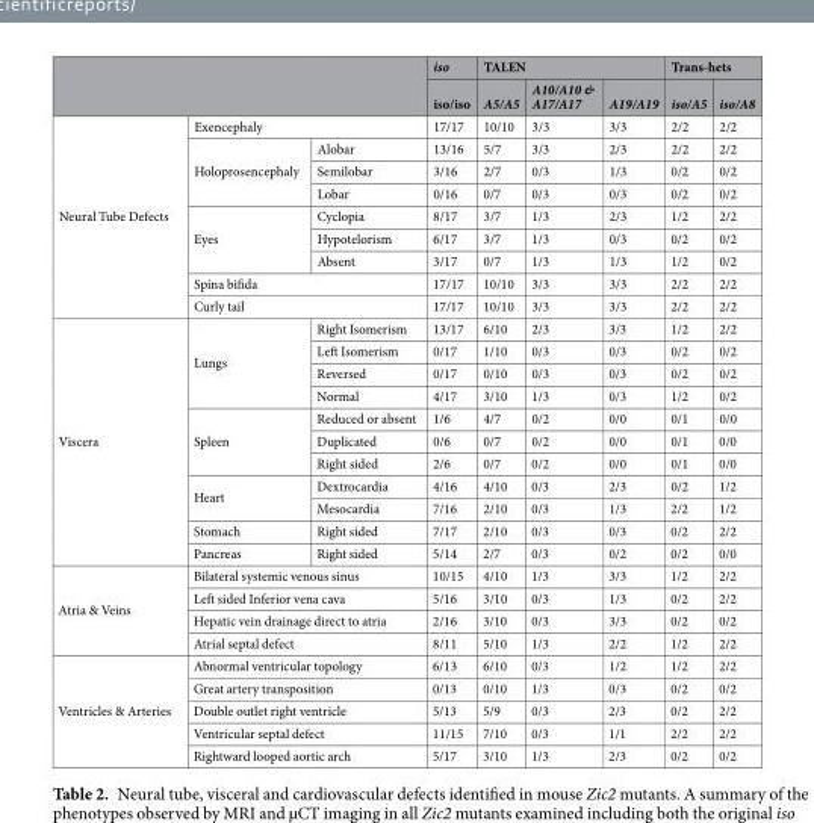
<table><thead><tr><td rowspan="2"></td><td rowspan="2"></td><td rowspan="2"></td><td rowspan="2">iso iso/iso</td><td colspan="3">TALEN</td><td colspan="2">Trans-hets</td></tr><tr><td>A5/A5</td><td>A10/A10 &amp; A17/A17</td><td>A19/A19</td><td>iso/A5</td><td>iso/A8</td></tr></thead><tbody><tr><td rowspan="9">Neural Tube Defects</td><td colspan="2">Exencephaly</td><td>17/17</td><td>10/10</td><td>3/3</td><td>3/3</td><td>2/2</td><td>2/2</td></tr><tr><td rowspan="3">Holoprosencephaly</td><td>Alobar</td><td>13/16</td><td>5/7</td><td>3/3</td><td>2/3</td><td>2/2</td><td>2/2</td></tr><tr><td>Semilobar</td><td>3/16</td><td>2/7</td><td>0/3</td><td>1/3</td><td>0/2</td><td>0/2</td></tr><tr><td>Lobar</td><td>0/16</td><td>0/7</td><td>0/3</td><td>0/3</td><td>0/2</td><td>0/2</td></tr><tr><td rowspan="3">Eyes</td><td>Cyclopia</td><td>8/17</td><td>3/7</td><td>1/3</td><td>2/3</td><td>1/2</td><td>2/2</td></tr><tr><td>Hypotelorism</td><td>6/17</td><td>3/7</td><td>1/3</td><td>0/3</td><td>0/2</td><td>0/2</td></tr><tr><td>Absent</td><td>3/17</td><td>0/7</td><td>1/3</td><td>1/3</td><td>1/2</td><td>0/2</td></tr><tr><td colspan="2">Spina bifida</td><td>17/17</td><td>10/10</td><td>3/3</td><td>3/3</td><td>2/2</td><td>2/2</td></tr><tr><td colspan="2">Curly tail</td><td>17/17</td><td>10/10</td><td>3/3</td><td>3/3</td><td>2/2</td><td>2/2</td></tr><tr><td rowspan="11">Viscera</td><td rowspan="4">Lungs</td><td>Right Isomerism</td><td>13/17</td><td>6/10</td><td>2/3</td><td>3/3</td><td>1/2</td><td>2/2</td></tr><tr><td>Left Isomerism</td><td>0/17</td><td>1/10</td><td>0/3</td><td>0/3</td><td>0/2</td><td>0/2</td></tr><tr><td>Reversed</td><td>0/17</td><td>0/10</td><td>0/3</td><td>0/3</td><td>0/2</td><td>0/2</td></tr><tr><td>Normal</td><td>4/17</td><td>3/10</td><td>1/3</td><td>0/3</td><td>1/2</td><td>0/2</td></tr><tr><td rowspan="3">Spleen</td><td>Reduced or absent</td><td>1/6</td><td>4/7</td><td>0/2</td><td>0/0</td><td>0/1</td><td>0/0</td></tr><tr><td>Duplicated</td><td>0/6</td><td>0/7</td><td>0/2</td><td>0/0</td><td>0/1</td><td>0/0</td></tr><tr><td>Right sided</td><td>2/6</td><td>0/7</td><td>0/2</td><td>0/0</td><td>0/1</td><td>0/0</td></tr><tr><td rowspan="2">Heart</td><td>Dextrocardia</td><td>4/16</td><td>4/10</td><td>0/3</td><td>2/3</td><td>0/2</td><td>1/2</td></tr><tr><td>Mesocardia</td><td>7/16</td><td>2/10</td><td>0/3</td><td>1/3</td><td>2/2</td><td>1/2</td></tr><tr><td>Stomach</td><td>Right sided</td><td>7/17</td><td>2/10</td><td>0/3</td><td>0/3</td><td>0/2</td><td>2/2</td></tr><tr><td>Pancreas</td><td>Right sided</td><td>5/14</td><td>2/7</td><td>0/3</td><td>0/2</td><td>0/2</td><td>0/0</td></tr><tr><td rowspan="4">Atria &amp; Veins</td><td colspan="2">Bilateral systemic venous sinus</td><td>10/15</td><td>4/10</td><td>1/3</td><td>3/3</td><td>1/2</td><td>2/2</td></tr><tr><td colspan="2">Left sided Inferior vena cava</td><td>5/16</td><td>3/10</td><td>0/3</td><td>1/3</td><td>0/2</td><td>2/2</td></tr><tr><td colspan="2">Hepatic vein drainage direct to atria</td><td>2/16</td><td>3/10</td><td>0/3</td><td>3/3</td><td>0/2</td><td>0/2</td></tr><tr><td colspan="2">Atrial septal defect</td><td>8/11</td><td>5/10</td><td>1/3</td><td>2/2</td><td>1/2</td><td>2/2</td></tr><tr><td rowspan="5">Ventricles &amp; Arteries</td><td colspan="2">Abnormal ventricular topology</td><td>6/13</td><td>6/10</td><td>0/3</td><td>1/2</td><td>1/2</td><td>2/2</td></tr><tr><td colspan="2">Great artery transposition</td><td>0/13</td><td>0/10</td><td>1/3</td><td>0/3</td><td>0/2</td><td>0/2</td></tr><tr><td colspan="2">Double outlet right ventricle</td><td>5/13</td><td>5/9</td><td>0/3</td><td>2/3</td><td>0/2</td><td>2/2</td></tr><tr><td colspan="2">Ventricular septal defect</td><td>11/15</td><td>7/10</td><td>0/3</td><td>1/1</td><td>2/2</td><td>2/2</td></tr><tr><td colspan="2">Rightward looped aortic arch</td><td>5/17</td><td>3/10</td><td>1/3</td><td>2/3</td><td>0/2</td><td>0/2</td></tr></tbody></table>